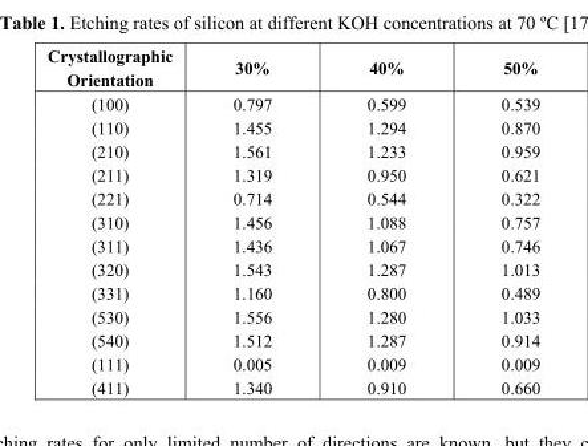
<table><thead><tr><td>Crystallographic Orientation</td><td>30%</td><td>40%</td><td>50%</td></tr></thead><tbody><tr><td>(100)</td><td>0.797</td><td>0.599</td><td>0.539</td></tr><tr><td>(110)</td><td>1.455</td><td>1.294</td><td>0.870</td></tr><tr><td>(210)</td><td>1.561</td><td>1.233</td><td>0.959</td></tr><tr><td>(211)</td><td>1.319</td><td>0.950</td><td>0.621</td></tr><tr><td>(221)</td><td>0.714</td><td>0.544</td><td>0.322</td></tr><tr><td>(310)</td><td>1.456</td><td>1.088</td><td>0.757</td></tr><tr><td>(311)</td><td>1.436</td><td>1.067</td><td>0.746</td></tr><tr><td>(320)</td><td>1.543</td><td>1.287</td><td>1.013</td></tr><tr><td>(331)</td><td>1.160</td><td>0.800</td><td>0.489</td></tr><tr><td>(530)</td><td>1.556</td><td>1.280</td><td>1.033</td></tr><tr><td>(540)</td><td>1.512</td><td>1.287</td><td>0.914</td></tr><tr><td>(111)</td><td>0.005</td><td>0.009</td><td>0.009</td></tr><tr><td>(411)</td><td>1.340</td><td>0.910</td><td>0.660</td></tr></tbody></table>